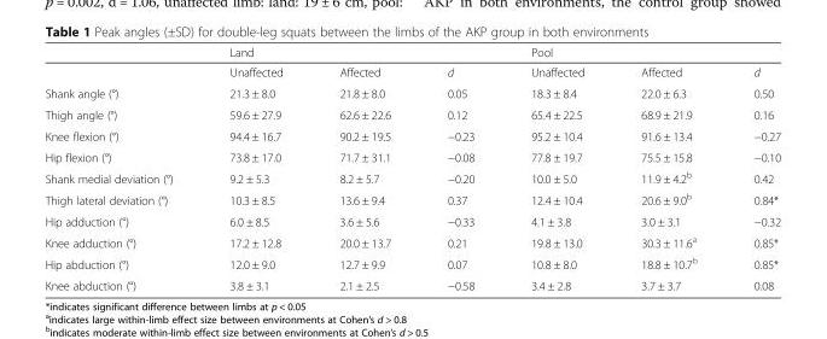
<table><thead><tr><td rowspan="2"></td><td colspan="3">Land</td><td colspan="3">Pool</td></tr><tr><td>Unaffected</td><td>Affected</td><td>d</td><td>Unaffected</td><td>Affected</td><td>d</td></tr></thead><tbody><tr><td>Shank angle (°)</td><td>21.3 ± 8.0</td><td>21.8 ± 8.0</td><td>0.05</td><td>18.3 ± 8.4</td><td>22.0 ± 6.3</td><td>0.50</td></tr><tr><td>Thigh angle (°)</td><td>59.6 ± 27.9</td><td>62.6 ± 22.6</td><td>0.12</td><td>65.4 ± 22.5</td><td>68.9 ± 21.9</td><td>0.16</td></tr><tr><td>Knee flexion (°)</td><td>94.4 ± 16.7</td><td>90.2 ± 19.5</td><td>−0.23</td><td>95.2 ± 10.4</td><td>91.6 ± 13.4</td><td>−0.27</td></tr><tr><td>Hip flexion (°)</td><td>73.8 ± 17.0</td><td>71.7 ± 31.1</td><td>−0.08</td><td>77.8 ± 19.7</td><td>75.5 ± 15.8</td><td>−0.10</td></tr><tr><td>Shank medial deviation (°)</td><td>9.2 ± 5.3</td><td>8.2 ± 5.7</td><td>−0.20</td><td>10.0 ± 5.0</td><td>11.9 ± 4.2<sup>b</sup></td><td>0.42</td></tr><tr><td>Thigh lateral deviation (°)</td><td>10.3 ± 8.5</td><td>13.6 ± 9.4</td><td>0.37</td><td>12.4 ± 10.4</td><td>20.6 ± 9.0<sup>b</sup></td><td>0.84*</td></tr><tr><td>Hip adduction (°)</td><td>6.0 ± 8.5</td><td>3.6 ± 5.6</td><td>−0.33</td><td>4.1 ± 3.8</td><td>3.0 ± 3.1</td><td>−0.32</td></tr><tr><td>Knee adduction (°)</td><td>17.2 ± 12.8</td><td>20.0 ± 13.7</td><td>0.21</td><td>19.8 ± 13.0</td><td>30.3 ± 11.6<sup>a</sup></td><td>0.85*</td></tr><tr><td>Hip abduction (°)</td><td>12.0 ± 9.0</td><td>12.7 ± 9.9</td><td>0.07</td><td>10.8 ± 8.0</td><td>18.8 ± 10.7<sup>b</sup></td><td>0.85*</td></tr><tr><td>Knee abduction (°)</td><td>3.8 ± 3.1</td><td>2.1 ± 2.5</td><td>−0.58</td><td>3.4 ± 2.8</td><td>3.7 ± 3.7</td><td>0.08</td></tr></tbody></table>